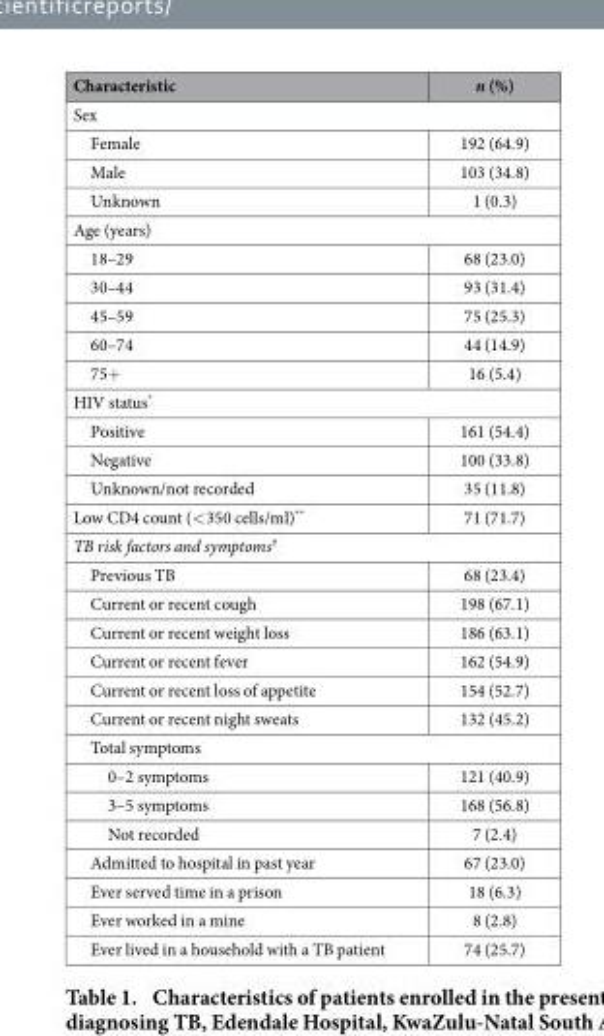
<table><thead><tr><td>Characteristic</td><td>n (%)</td></tr></thead><tbody><tr><td colspan="2">Sex</td></tr><tr><td>Female</td><td>192 (64.9)</td></tr><tr><td>Male</td><td>103 (34.8)</td></tr><tr><td>Unknown</td><td>1 (0.3)</td></tr><tr><td colspan="2">Age (years)</td></tr><tr><td>18–29</td><td>68 (23.0)</td></tr><tr><td>30–44</td><td>93 (31.4)</td></tr><tr><td>45–59</td><td>75 (25.3)</td></tr><tr><td>60–74</td><td>44 (14.9)</td></tr><tr><td>75+</td><td>16 (5.4)</td></tr><tr><td colspan="2">HIV status*</td></tr><tr><td>Positive</td><td>161 (54.4)</td></tr><tr><td>Negative</td><td>100 (33.8)</td></tr><tr><td>Unknown/not recorded</td><td>35 (11.8)</td></tr><tr><td>Low CD4 count (&lt; 350 cells/ml)**</td><td>71 (71.7)</td></tr><tr><td colspan="2">TB risk factors and symptoms†</td></tr><tr><td>Previous TB</td><td>68 (23.4)</td></tr><tr><td>Current or recent cough</td><td>198 (67.1)</td></tr><tr><td>Current or recent weight loss</td><td>186 (63.1)</td></tr><tr><td>Current or recent fever</td><td>162 (54.9)</td></tr><tr><td>Current or recent loss of appetite</td><td>154 (52.7)</td></tr><tr><td>Current or recent night sweats</td><td>132 (45.2)</td></tr><tr><td colspan="2">Total symptoms</td></tr><tr><td>0–2 symptoms</td><td>121 (40.9)</td></tr><tr><td>3–5 symptoms</td><td>168 (56.8)</td></tr><tr><td>Not recorded</td><td>7 (2.4)</td></tr><tr><td>Admitted to hospital in past year</td><td>67 (23.0)</td></tr><tr><td>Ever served time in a prison</td><td>18 (6.3)</td></tr><tr><td>Ever worked in a mine</td><td>8 (2.8)</td></tr><tr><td>Ever lived in a household with a TB patient</td><td>74 (25.7)</td></tr></tbody></table>